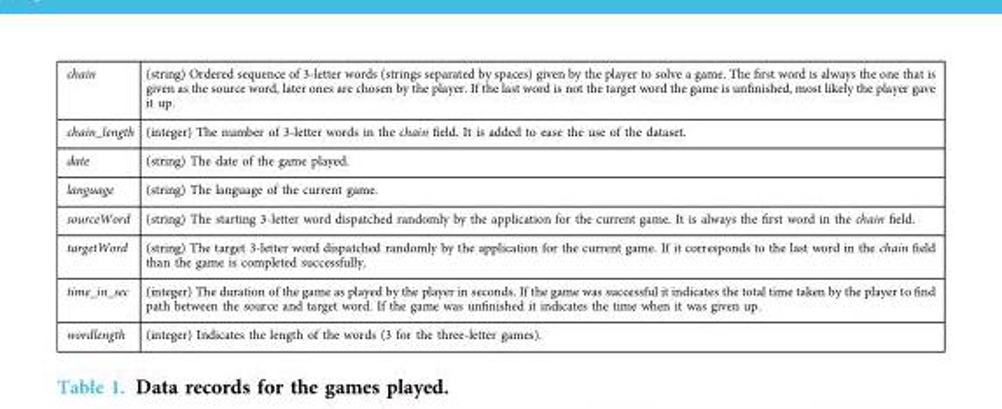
<table><tbody><tr><td>chain</td><td>(string) Ordered sequence of 3-letter words (strings separated by spaces) given by the player to solve a game. The first word is always the one that is given as the source word, later ones are chosen by the player. If the last word is not the target word the game is unfinished, most likely the player gave it up.</td></tr><tr><td>chain_length</td><td>(integer) The number of 3-letter words in the chain field. It is added to ease the use of the dataset.</td></tr><tr><td>date</td><td>(string) The date of the game played.</td></tr><tr><td>language</td><td>(string) The language of the current game.</td></tr><tr><td>sourceWord</td><td>(string) The starting 3-letter word dispatched randomly by the application for the current game. It is always the first word in the chain field.</td></tr><tr><td>targetWord</td><td>(string) The target 3-letter word dispatched randomly by the application for the current game. If it corresponds to the last word in the chain field than the game is completed successfully.</td></tr><tr><td>time_in_sec</td><td>(integer) The duration of the game as played by the player in seconds. If the game was successful it indicates the total time taken by the player to find path between the source and target word. If the game was unfinished it indicates the time when it was given up.</td></tr><tr><td>wordlength</td><td>(integer) Indicates the length of the words (3 for the three-letter games).</td></tr></tbody></table>